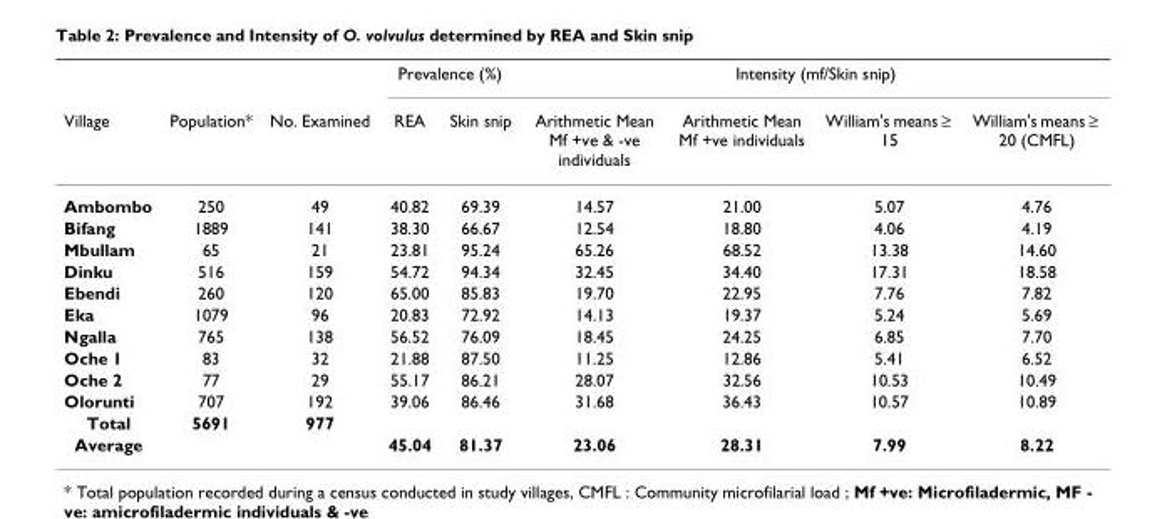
<table><thead><tr><td rowspan="2">Village</td><td rowspan="2">Population*</td><td rowspan="2">No. Examined</td><td colspan="2">Prevalence (%)</td><td colspan="4">Intensity (mf/Skin snip)</td></tr><tr><td>REA</td><td>Skin snip</td><td>Arithmetic Mean Mf +ve &amp; -ve individuals</td><td>Arithmetic Mean Mf +ve individuals</td><td>William&#x27;s means ≥ 15</td><td>William&#x27;s means ≥ 20 (CMFL)</td></tr></thead><tbody><tr><td>Ambombo</td><td>250</td><td>49</td><td>40.82</td><td>69.39</td><td>14.57</td><td>21.00</td><td>5.07</td><td>4.76</td></tr><tr><td>Bifang</td><td>1889</td><td>141</td><td>38.30</td><td>66.67</td><td>12.54</td><td>18.80</td><td>4.06</td><td>4.19</td></tr><tr><td>Mbullam</td><td>65</td><td>21</td><td>23.81</td><td>95.24</td><td>65.26</td><td>68.52</td><td>13.38</td><td>14.60</td></tr><tr><td>Dinku</td><td>516</td><td>159</td><td>54.72</td><td>94.34</td><td>32.45</td><td>34.40</td><td>17.31</td><td>18.58</td></tr><tr><td>Ebendi</td><td>260</td><td>120</td><td>65.00</td><td>85.83</td><td>19.70</td><td>22.95</td><td>7.76</td><td>7.82</td></tr><tr><td>Eka</td><td>1079</td><td>96</td><td>20.83</td><td>72.92</td><td>14.13</td><td>19.37</td><td>5.24</td><td>5.69</td></tr><tr><td>Ngalla</td><td>765</td><td>138</td><td>56.52</td><td>76.09</td><td>18.45</td><td>24.25</td><td>6.85</td><td>7.70</td></tr><tr><td>Oche 1</td><td>83</td><td>32</td><td>21.88</td><td>87.50</td><td>11.25</td><td>12.86</td><td>5.41</td><td>6.52</td></tr><tr><td>Oche 2</td><td>77</td><td>29</td><td>55.17</td><td>86.21</td><td>28.07</td><td>32.56</td><td>10.53</td><td>10.49</td></tr><tr><td>Olorunti</td><td>707</td><td>192</td><td>39.06</td><td>86.46</td><td>31.68</td><td>36.43</td><td>10.57</td><td>10.89</td></tr><tr><td>Total</td><td>5691</td><td>977</td><td></td><td></td><td></td><td></td><td></td><td></td></tr><tr><td>Average</td><td></td><td></td><td>45.04</td><td>81.37</td><td>23.06</td><td>28.31</td><td>7.99</td><td>8.22</td></tr></tbody></table>